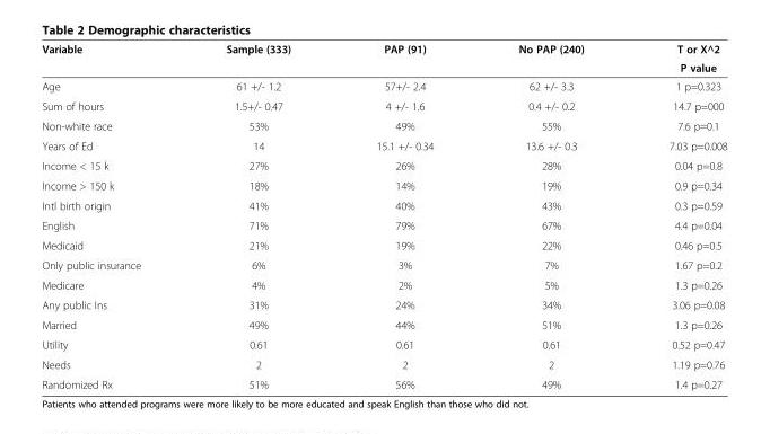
<table><thead><tr><td rowspan="2">Variable</td><td rowspan="2">Sample (333)</td><td rowspan="2">PAP (91)</td><td rowspan="2">No PAP (240)</td><td rowspan="2">T or X^2 P value</td></tr><tr></tr></thead><tbody><tr><td>Age</td><td>61 +/- 1.2</td><td>57+/- 2.4</td><td>62 +/- 3.3</td><td>1 p=0.323</td></tr><tr><td>Sum of hours</td><td>1.5+/- 0.47</td><td>4 +/- 1.6</td><td>0.4 +/- 0.2</td><td>14.7 p=000</td></tr><tr><td>Non-white race</td><td>53%</td><td>49%</td><td>55%</td><td>7.6 p=0.1</td></tr><tr><td>Years of Ed</td><td>14</td><td>15.1 +/- 0.34</td><td>13.6 +/- 0.3</td><td>7.03 p=0.008</td></tr><tr><td>Income &lt; 15 k</td><td>27%</td><td>26%</td><td>28%</td><td>0.04 p=0.8</td></tr><tr><td>Income &gt; 150 k</td><td>18%</td><td>14%</td><td>19%</td><td>0.9 p=0.34</td></tr><tr><td>Intl birth origin</td><td>41%</td><td>40%</td><td>43%</td><td>0.3 p=0.59</td></tr><tr><td>English</td><td>71%</td><td>79%</td><td>67%</td><td>4.4 p=0.04</td></tr><tr><td>Medicaid</td><td>21%</td><td>19%</td><td>22%</td><td>0.46 p=0.5</td></tr><tr><td>Only public insurance</td><td>6%</td><td>3%</td><td>7%</td><td>1.67 p=0.2</td></tr><tr><td>Medicare</td><td>4%</td><td>2%</td><td>5%</td><td>1.3 p=0.26</td></tr><tr><td>Any public Ins</td><td>31%</td><td>24%</td><td>34%</td><td>3.06 p=0.08</td></tr><tr><td>Married</td><td>49%</td><td>44%</td><td>51%</td><td>1.3 p=0.26</td></tr><tr><td>Utility</td><td>0.61</td><td>0.61</td><td>0.61</td><td>0.52 p=0.47</td></tr><tr><td>Needs</td><td>2</td><td>2</td><td>2</td><td>1.19 p=0.76</td></tr><tr><td>Randomized Rx</td><td>51%</td><td>56%</td><td>49%</td><td>1.4 p=0.27</td></tr></tbody></table>